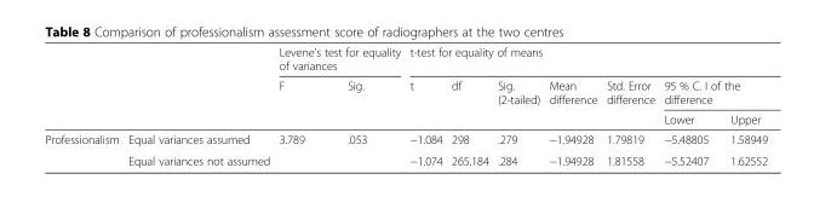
<table><thead><tr><td rowspan="3"></td><td rowspan="3"></td><td colspan="2">Levene&#x27;s test for equality of variances</td><td colspan="7">t-test for equality of means</td></tr><tr><td rowspan="2">F</td><td rowspan="2">Sig.</td><td rowspan="2">t</td><td rowspan="2">df</td><td rowspan="2">Sig. (2-tailed)</td><td rowspan="2">Mean difference</td><td rowspan="2">Std. Error difference</td><td colspan="2">95 % C. I of the difference</td></tr><tr><td>Lower</td><td>Upper</td></tr></thead><tbody><tr><td rowspan="2">Professionalism</td><td>Equal variances assumed</td><td>3.789</td><td>.053</td><td>−1.084</td><td>298</td><td>.279</td><td>−1.94928</td><td>1.79819</td><td>−5.48805</td><td>1.58949</td></tr><tr><td>Equal variances not assumed</td><td></td><td></td><td>−1.074</td><td>265.184</td><td>.284</td><td>−1.94928</td><td>1.81558</td><td>−5.52407</td><td>1.62552</td></tr></tbody></table>